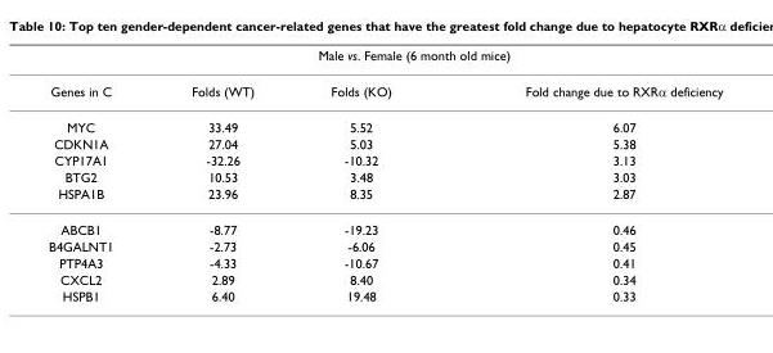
<table><thead><tr><td colspan="4">Male vs. Female (6 month old mice)</td></tr><tr><td>Genes in C</td><td>Folds (WT)</td><td>Folds (KO)</td><td>Fold change due to RXRα deficiency</td></tr></thead><tbody><tr><td>MYC</td><td>33.49</td><td>5.52</td><td>6.07</td></tr><tr><td>CDKN1A</td><td>27.04</td><td>5.03</td><td>5.38</td></tr><tr><td>CYP17A1</td><td>-32.26</td><td>-10.32</td><td>3.13</td></tr><tr><td>BTG2</td><td>10.53</td><td>3.48</td><td>3.03</td></tr><tr><td>HSPA1B</td><td>23.96</td><td>8.35</td><td>2.87</td></tr><tr><td>ABCB1</td><td>-8.77</td><td>-19.23</td><td>0.46</td></tr><tr><td>B4GALNT1</td><td>-2.73</td><td>-6.06</td><td>0.45</td></tr><tr><td>PTP4A3</td><td>-4.33</td><td>-10.67</td><td>0.41</td></tr><tr><td>CXCL2</td><td>2.89</td><td>8.40</td><td>0.34</td></tr><tr><td>HSPB1</td><td>6.40</td><td>19.48</td><td>0.33</td></tr></tbody></table>